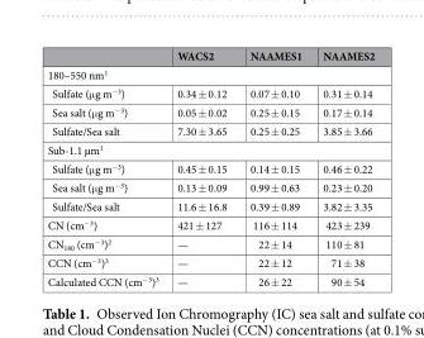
<table><thead><tr><td></td><td>WACS2</td><td>NAAMES1</td><td>NAAMES2</td></tr></thead><tbody><tr><td colspan="4">180–550 nm<sup>1</sup></td></tr><tr><td>Sulfate (μg m<sup>−3</sup>)</td><td>0.34 ± 0.12</td><td>0.07 ± 0.10</td><td>0.31 ± 0.14</td></tr><tr><td>Sea salt (μg m<sup>−3</sup>)</td><td>0.05 ± 0.02</td><td>0.25 ± 0.15</td><td>0.17 ± 0.14</td></tr><tr><td>Sulfate/Sea salt</td><td>7.30 ± 3.65</td><td>0.25 ± 0.25</td><td>3.85 ± 3.66</td></tr><tr><td colspan="4">Sub-1.1 µm<sup>1</sup></td></tr><tr><td>Sulfate (μg m<sup>−3</sup>)</td><td>0.45 ± 0.15</td><td>0.14 ± 0.15</td><td>0.46 ± 0.22</td></tr><tr><td>Sea salt (μg m<sup>−3</sup>)</td><td>0.13 ± 0.09</td><td>0.99 ± 0.63</td><td>0.23 ± 0.20</td></tr><tr><td>Sulfate/Sea salt</td><td>11.6 ± 16.8</td><td>0.39 ± 0.89</td><td>3.82 ± 3.35</td></tr><tr><td>CN (cm<sup>−3</sup>)</td><td>421 ± 127</td><td>116 ± 114</td><td>423 ± 239</td></tr><tr><td>CN<sub>180</sub> (cm<sup>−3</sup>)<sup>2</sup></td><td>—</td><td>22 ± 14</td><td>110 ± 81</td></tr><tr><td>CCN (cm<sup>−3</sup>)<sup>3</sup></td><td>—</td><td>22 ± 12</td><td>71 ± 38</td></tr><tr><td>Calculated CCN (cm<sup>−3</sup>)<sup>3</sup></td><td>—</td><td>26 ± 22</td><td>90 ± 54</td></tr></tbody></table>